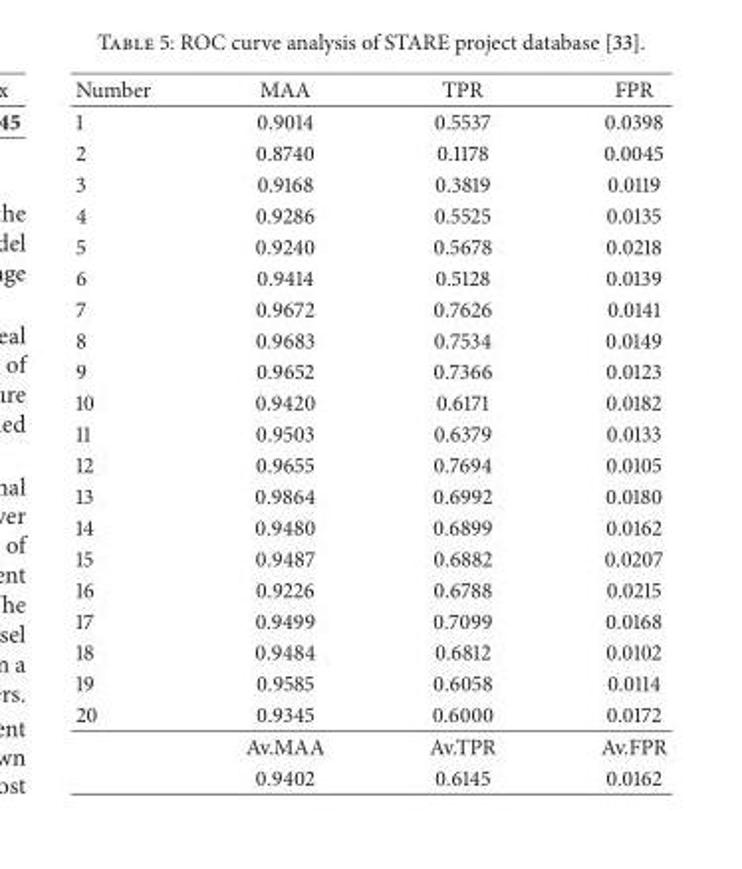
<table><thead><tr><td>Number</td><td>MAA</td><td>TPR</td><td>FPR</td></tr></thead><tbody><tr><td>1</td><td>0.9014</td><td>0.5537</td><td>0.0398</td></tr><tr><td>2</td><td>0.8740</td><td>0.1178</td><td>0.0045</td></tr><tr><td>3</td><td>0.9168</td><td>0.3819</td><td>0.0119</td></tr><tr><td>4</td><td>0.9286</td><td>0.5525</td><td>0.0135</td></tr><tr><td>5</td><td>0.9240</td><td>0.5678</td><td>0.0218</td></tr><tr><td>6</td><td>0.9414</td><td>0.5128</td><td>0.0139</td></tr><tr><td>7</td><td>0.9672</td><td>0.7626</td><td>0.0141</td></tr><tr><td>8</td><td>0.9683</td><td>0.7534</td><td>0.0149</td></tr><tr><td>9</td><td>0.9652</td><td>0.7366</td><td>0.0123</td></tr><tr><td>10</td><td>0.9420</td><td>0.6171</td><td>0.0182</td></tr><tr><td>11</td><td>0.9503</td><td>0.6379</td><td>0.0133</td></tr><tr><td>12</td><td>0.9655</td><td>0.7694</td><td>0.0105</td></tr><tr><td>13</td><td>0.9864</td><td>0.6992</td><td>0.0180</td></tr><tr><td>14</td><td>0.9480</td><td>0.6899</td><td>0.0162</td></tr><tr><td>15</td><td>0.9487</td><td>0.6882</td><td>0.0207</td></tr><tr><td>16</td><td>0.9226</td><td>0.6788</td><td>0.0215</td></tr><tr><td>17</td><td>0.9499</td><td>0.7099</td><td>0.0168</td></tr><tr><td>18</td><td>0.9484</td><td>0.6812</td><td>0.0102</td></tr><tr><td>19</td><td>0.9585</td><td>0.6058</td><td>0.0114</td></tr><tr><td rowspan="3">20</td><td>0.9345</td><td>0.6000</td><td>0.0172</td></tr><tr><td>Av.MAA</td><td>Av.TPR</td><td>Av.FPR</td></tr><tr><td>0.9402</td><td>0.6145</td><td>0.0162</td></tr></tbody></table>